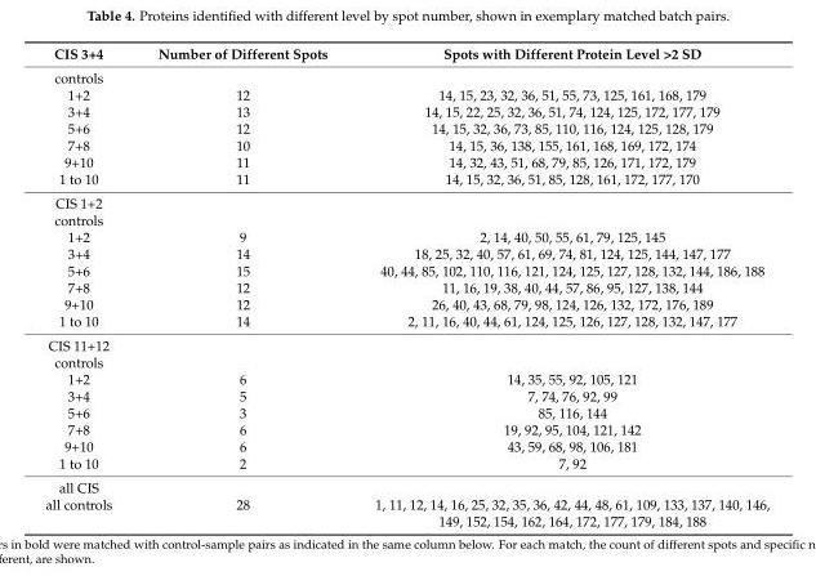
<table><thead><tr><td>CIS 3+4</td><td>Number of Different Spots</td><td>Spots with Different Protein Level &gt;2 SD</td></tr></thead><tbody><tr><td colspan="3">controls</td></tr><tr><td>1+2</td><td>12</td><td>14, 15, 23, 32, 36, 51, 55, 73, 125, 161, 168, 179</td></tr><tr><td>3+4</td><td>13</td><td>14, 15, 22, 25, 32, 36, 51, 74, 124, 125, 172, 177, 179</td></tr><tr><td>5+6</td><td>12</td><td>14, 15, 32, 36, 73, 85, 110, 116, 124, 125, 128, 179</td></tr><tr><td>7+8</td><td>10</td><td>14, 15, 36, 138, 155, 161, 168, 169, 172, 174</td></tr><tr><td>9+10</td><td>11</td><td>14, 32, 43, 51, 68, 79, 85, 126, 171, 172, 179</td></tr><tr><td>1 to 10</td><td>11</td><td>14, 15, 32, 36, 51, 85, 128, 161, 172, 177, 170</td></tr><tr><td colspan="3">CIS 1+2</td></tr><tr><td colspan="3">controls</td></tr><tr><td>1+2</td><td>9</td><td>2, 14, 40, 50, 55, 61, 79, 125, 145</td></tr><tr><td>3+4</td><td>14</td><td>18, 25, 32, 40, 57, 61, 69, 74, 81, 124, 125, 144, 147, 177</td></tr><tr><td>5+6</td><td>15</td><td>40, 44, 85, 102, 110, 116, 121, 124, 125, 127, 128, 132, 144, 186, 188</td></tr><tr><td>7+8</td><td>12</td><td>11, 16, 19, 38, 40, 44, 57, 86, 95, 127, 138, 144</td></tr><tr><td>9+10</td><td>12</td><td>26, 40, 43, 68, 79, 98, 124, 126, 132, 172, 176, 189</td></tr><tr><td>1 to 10</td><td>14</td><td>2, 11, 16, 40, 44, 61, 124, 125, 126, 127, 128, 132, 147, 177</td></tr><tr><td colspan="3">CIS 11+12</td></tr><tr><td colspan="3">controls</td></tr><tr><td>1+2</td><td>6</td><td>14, 35, 55, 92, 105, 121</td></tr><tr><td>3+4</td><td>5</td><td>7, 74, 76, 92, 99</td></tr><tr><td>5+6</td><td>3</td><td>85, 116, 144</td></tr><tr><td>7+8</td><td>6</td><td>19, 92, 95, 104, 121, 142</td></tr><tr><td>9+10</td><td>6</td><td>43, 59, 68, 98, 106, 181</td></tr><tr><td>1 to 10</td><td>2</td><td>7, 92</td></tr><tr><td colspan="3">all CIS</td></tr><tr><td rowspan="2">all controls</td><td>28</td><td>1, 11, 12, 14, 16, 25, 32, 35, 36, 42, 44, 48, 61, 109, 133, 137, 140, 146,</td></tr><tr><td></td><td>149, 152, 154, 162, 164, 172, 177, 179, 184, 188</td></tr></tbody></table>